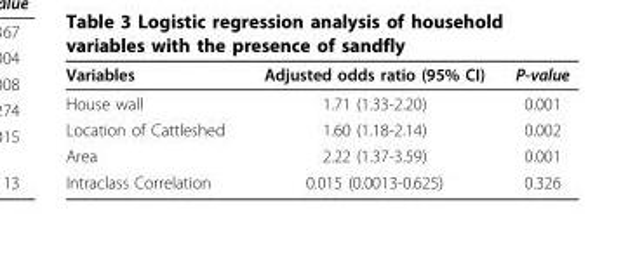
<table><thead><tr><td>Variables</td><td>Adjusted odds ratio (95% CI)</td><td>P-value</td></tr></thead><tbody><tr><td>House wall</td><td>1.71 (1.33-2.20)</td><td>0.001</td></tr><tr><td>Location of Cattleshed</td><td>1.60 (1.18-2.14)</td><td>0.002</td></tr><tr><td>Area</td><td>2.22 (1.37-3.59)</td><td>0.001</td></tr><tr><td>Intraclass Correlation</td><td>0.015 (0.0013-0.625)</td><td>0.326</td></tr></tbody></table>